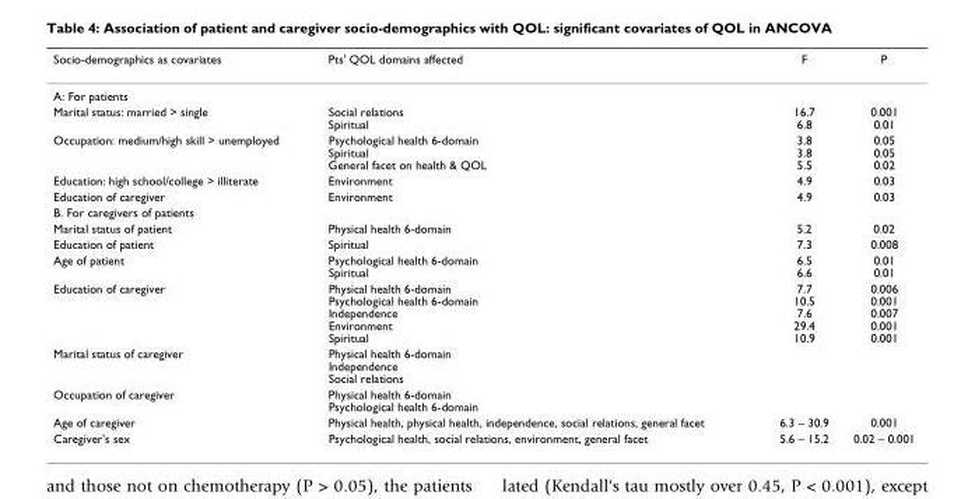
<table><thead><tr><td>Socio-demographics as covariates</td><td>Pts&#x27; QOL domains affected</td><td>F</td><td>P</td></tr></thead><tbody><tr><td colspan="4">A: For patients</td></tr><tr><td>Marital status: married &gt; single</td><td>Social relations Spiritual</td><td>16.7 6.8</td><td>0.001 0.01</td></tr><tr><td>Occupation: medium/high skill &gt; unemployed</td><td>Psychological health 6-domain Spiritual General facet on health &amp; QOL</td><td>3.8 3.8 5.5</td><td>0.05 0.05 0.02</td></tr><tr><td>Education: high school/college &gt; illiterate</td><td>Environment</td><td>4.9</td><td>0.03</td></tr><tr><td>Education of caregiver</td><td>Environment</td><td>4.9</td><td>0.03</td></tr><tr><td colspan="4">B. For caregivers of patients</td></tr><tr><td>Marital status of patient</td><td>Physical health 6-domain</td><td>5.2</td><td>0.02</td></tr><tr><td>Education of patient</td><td>Spiritual</td><td>7.3</td><td>0.008</td></tr><tr><td>Age of patient</td><td>Psychological health 6-domain Spiritual</td><td>6.5 6.6</td><td>0.01 0.01</td></tr><tr><td>Education of caregiver</td><td>Physical health 6-domain Psychological health 6-domain Independence Environment Spiritual</td><td>7.7 10.5 7.6 29.4 10.9</td><td>0.006 0.001 0.007 0.001 0.001</td></tr><tr><td>Marital status of caregiver</td><td>Physical health 6-domain Independence Social relations</td><td></td><td></td></tr><tr><td>Occupation of caregiver</td><td>Physical health 6-domain Psychological health 6-domain</td><td></td><td></td></tr><tr><td>Age of caregiver</td><td>Physical health, physical health, independence, social relations, general facet</td><td>6.3 – 30.9</td><td>0.001</td></tr><tr><td>Caregiver&#x27;s sex</td><td>Psychological health, social relations, environment, general facet</td><td>5.6 – 15.2</td><td>0.02 – 0.001</td></tr></tbody></table>